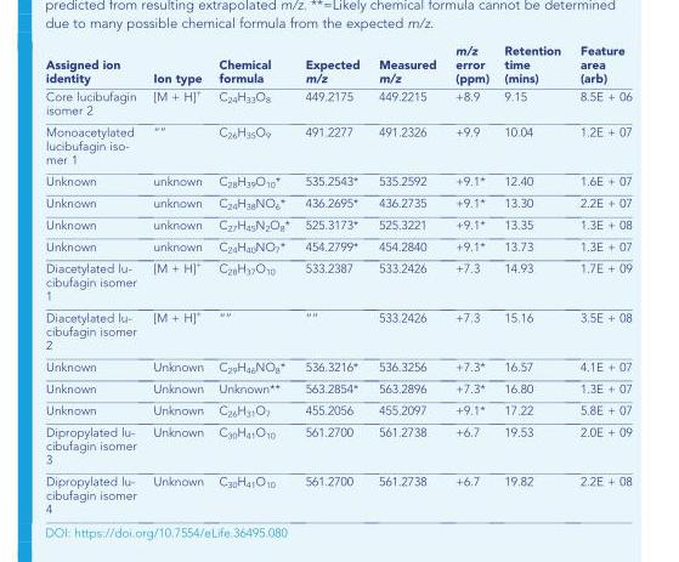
<table><thead><tr><td>Assigned ion identity</td><td>Ion type</td><td>Chemical formula</td><td>Expected m/z</td><td>Measured m/z</td><td>m/z error (ppm)</td><td>Retention time (mins)</td><td>Feature area (arb)</td></tr></thead><tbody><tr><td>Core lucibufagin isomer 2</td><td>[M + H]<sup>+</sup></td><td>C<sub>24</sub>H<sub>33</sub>O<sub>8</sub></td><td>449.2175</td><td>449.2215</td><td>+8.9</td><td>9.15</td><td>8.5E + 06</td></tr><tr><td>Monoacetylated lucibufagin iso- mer 1</td><td>“”</td><td>C<sub>26</sub>H<sub>35</sub>O<sub>9</sub></td><td>491.2277</td><td>491.2326</td><td>+9.9</td><td>10.04</td><td>1.2E + 07</td></tr><tr><td>Unknown</td><td>unknown</td><td>C<sub>28</sub>H<sub>39</sub>O<sub>10</sub>*</td><td>535.2543*</td><td>535.2592</td><td>+9.1*</td><td>12.40</td><td>1.6E + 07</td></tr><tr><td>Unknown</td><td>unknown</td><td>C<sub>24</sub>H<sub>38</sub>NO<sub>6</sub>*</td><td>436.2695*</td><td>436.2735</td><td>+9.1*</td><td>13.30</td><td>2.2E + 07</td></tr><tr><td>Unknown</td><td>unknown</td><td>C<sub>27</sub>H<sub>45</sub>N<sub>2</sub>O<sub>8</sub>*</td><td>525.3173*</td><td>525.3221</td><td>+9.1*</td><td>13.35</td><td>1.3E + 08</td></tr><tr><td>Unknown</td><td>unknown</td><td>C<sub>24</sub>H<sub>40</sub>NO<sub>7</sub>*</td><td>454.2799*</td><td>454.2840</td><td>+9.1*</td><td>13.73</td><td>1.3E + 07</td></tr><tr><td>Diacetylated lu- cibufagin isomer 1</td><td>[M + H]<sup>+</sup></td><td>C<sub>28</sub>H<sub>37</sub>O<sub>10</sub></td><td>533.2387</td><td>533.2426</td><td>+7.3</td><td>14.93</td><td>1.7E + 09</td></tr><tr><td>Diacetylated lu- cibufagin isomer 2</td><td>[M + H]<sup>+</sup></td><td>“”</td><td>“”</td><td>533.2426</td><td>+7.3</td><td>15.16</td><td>3.5E + 08</td></tr><tr><td>Unknown</td><td>Unknown</td><td>C<sub>29</sub>H<sub>46</sub>NO<sub>8</sub>*</td><td>536.3216*</td><td>536.3256</td><td>+7.3*</td><td>16.57</td><td>4.1E + 07</td></tr><tr><td>Unknown</td><td>Unknown</td><td>Unknown**</td><td>563.2854*</td><td>563.2896</td><td>+7.3*</td><td>16.80</td><td>1.3E + 07</td></tr><tr><td>Unknown</td><td>Unknown</td><td>C<sub>26</sub>H<sub>31</sub>O<sub>7</sub></td><td>455.2056</td><td>455.2097</td><td>+9.1*</td><td>17.22</td><td>5.8E + 07</td></tr><tr><td>Dipropylated lu- cibufagin isomer 3</td><td>Unknown</td><td>C<sub>30</sub>H<sub>41</sub>O<sub>10</sub></td><td>561.2700</td><td>561.2738</td><td>+6.7</td><td>19.53</td><td>2.0E + 09</td></tr><tr><td>Dipropylated lu- cibufagin isomer 4</td><td>Unknown</td><td>C<sub>30</sub>H<sub>41</sub>O<sub>10</sub></td><td>561.2700</td><td>561.2738</td><td>+6.7</td><td>19.82</td><td>2.2E + 08</td></tr></tbody></table>